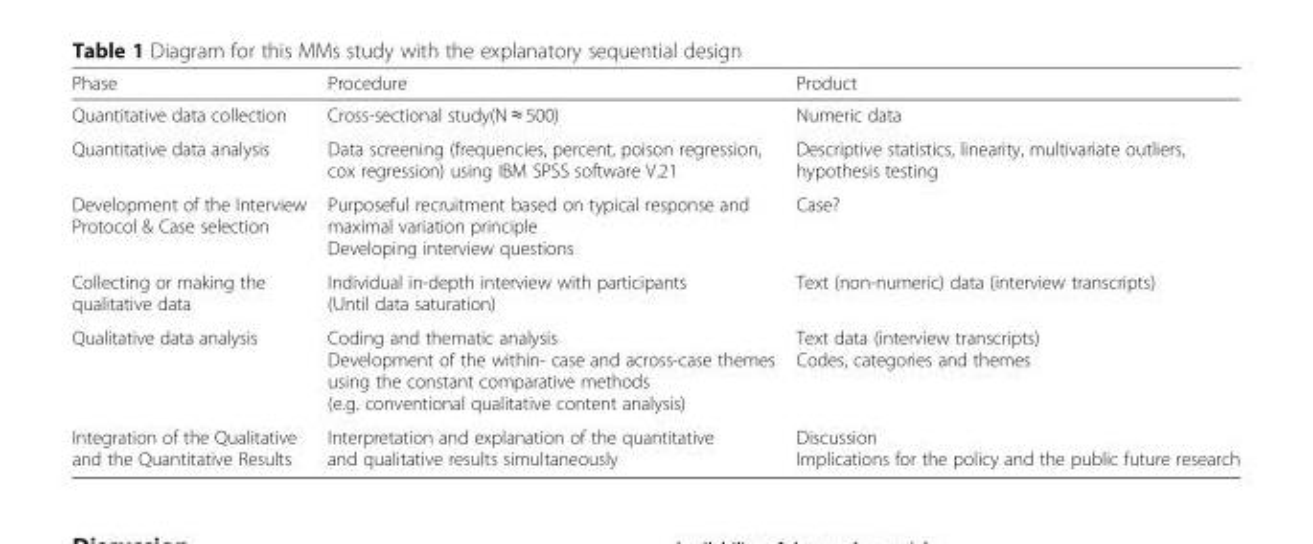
<table><thead><tr><td>Phase</td><td>Procedure</td><td>Product</td></tr></thead><tbody><tr><td>Quantitative data collection</td><td>Cross-sectional study(N ≈ 500)</td><td>Numeric data</td></tr><tr><td>Quantitative data analysis</td><td>Data screening (frequencies, percent, poison regression, cox regression) using IBM SPSS software V.21</td><td>Descriptive statistics, linearity, multivariate outliers, hypothesis testing</td></tr><tr><td>Development of the Interview Protocol &amp; Case selection</td><td>Purposeful recruitment based on typical response and maximal variation principle Developing interview questions</td><td>Case?</td></tr><tr><td>Collecting or making the qualitative data</td><td>Individual in-depth interview with participants (Until data saturation)</td><td>Text (non-numeric) data (interview transcripts)</td></tr><tr><td>Qualitative data analysis</td><td>Coding and thematic analysis Development of the within- case and across-case themes using the constant comparative methods (e.g. conventional qualitative content analysis)</td><td>Text data (interview transcripts) Codes, categories and themes</td></tr><tr><td>Integration of the Qualitative and the Quantitative Results</td><td>Interpretation and explanation of the quantitative and qualitative results simultaneously</td><td>Discussion Implications for the policy and the public future research</td></tr></tbody></table>